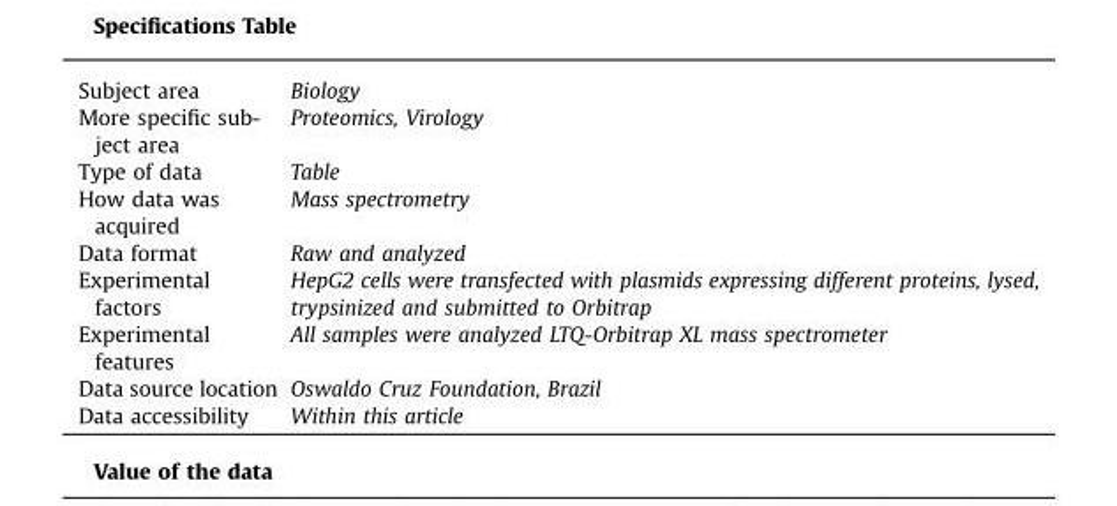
<table><tbody><tr><td>Subject area</td><td>Biology</td></tr><tr><td>More specific sub- ject area</td><td>Proteomics, Virology</td></tr><tr><td>Type of data</td><td>Table</td></tr><tr><td>How data was acquired</td><td>Mass spectrometry</td></tr><tr><td>Data format</td><td>Raw and analyzed</td></tr><tr><td>Experimental factors</td><td>HepG2 cells were transfected with plasmids expressing different proteins, lysed, trypsinized and submitted to Orbitrap</td></tr><tr><td>Experimental features</td><td>All samples were analyzed LTQ-Orbitrap XL mass spectrometer</td></tr><tr><td>Data source location</td><td>Oswaldo Cruz Foundation, Brazil</td></tr><tr><td>Data accessibility</td><td>Within this article</td></tr></tbody></table>